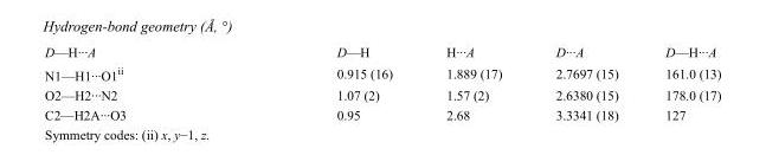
<table><tbody><tr><td>D—H···A</td><td>D—H</td><td>H···A</td><td>D···A</td><td>D—H···A</td></tr><tr><td>N1—H1···O1<sup>ii</sup></td><td>0.915 (16)</td><td>1.889 (17)</td><td>2.7697 (15)</td><td>161.0 (13)</td></tr><tr><td>O2—H2···N2</td><td>1.07 (2)</td><td>1.57 (2)</td><td>2.6380 (15)</td><td>178.0 (17)</td></tr><tr><td>C2—H2A···O3</td><td>0.95</td><td>2.68</td><td>3.3341 (18)</td><td>127</td></tr></tbody></table>